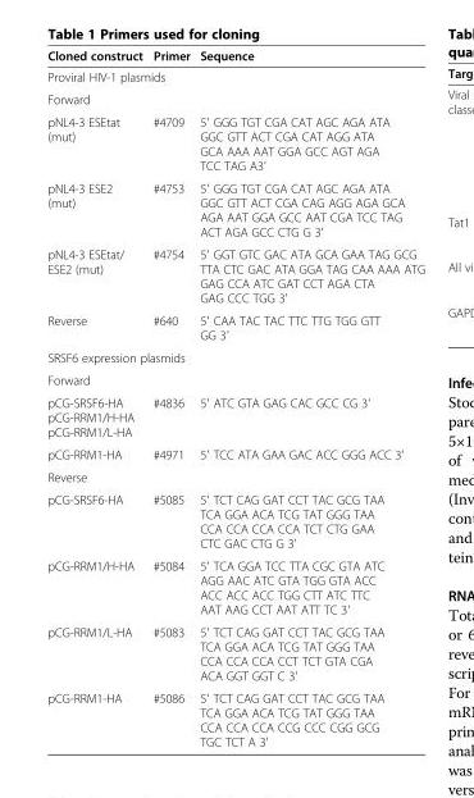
<table><thead><tr><td>Cloned construct</td><td>Primer</td><td>Sequence</td></tr></thead><tbody><tr><td colspan="3">Proviral HIV-1 plasmids</td></tr><tr><td colspan="3">Forward</td></tr><tr><td>pNL4-3 ESEtat (mut)</td><td>#4709</td><td>5′ GGG TGT CGA CAT AGC AGA ATA GGC GTT ACT CGA CAT AGG ATA GCA AAA AAT GGA GCC AGT AGA TCC TAG A3′</td></tr><tr><td>pNL4-3 ESE2 (mut)</td><td>#4753</td><td>5′ GGG TGT CGA CAT AGC AGA ATA GGC GTT ACT CGA CAG AGG AGA GCA AGA AAT GGA GCC AAT CGA TCC TAG ACT AGA GCC CTG G 3′</td></tr><tr><td>pNL4-3 ESEtat/ ESE2 (mut)</td><td>#4754</td><td>5′ GGT GTC GAC ATA GCA GAA TAG GCG TTA CTC GAC ATA GGA TAG CAA AAA ATG GAG CCA ATC GAT CCT AGA CTA GAG CCC TGG 3′</td></tr><tr><td>Reverse</td><td>#640</td><td>5′ CAA TAC TAC TTC TTG TGG GTT GG 3′</td></tr><tr><td colspan="3">SRSF6 expression plasmids</td></tr><tr><td colspan="3">Forward</td></tr><tr><td>pCG-SRSF6-HA pCG-RRM1/H-HA pCG-RRM1/L-HA</td><td>#4836</td><td>5′ ATC GTA GAG CAC GCC CG 3′</td></tr><tr><td>pCG-RRM1-HA</td><td>#4971</td><td>5′ TCC ATA GAA GAC ACC GGG ACC 3′</td></tr><tr><td colspan="3">Reverse</td></tr><tr><td>pCG-SRSF6-HA</td><td>#5085</td><td>5′ TCT CAG GAT CCT TAC GCG TAA TCA GGA ACA TCG TAT GGG TAA CCA CCA CCA CCA TCT CTG GAA CTC GAC CTG G 3′</td></tr><tr><td>pCG-RRM1/H-HA</td><td>#5084</td><td>5′ TCA GGA TCC TTA CGC GTA ATC AGG AAC ATC GTA TGG GTA ACC ACC ACC ACC TGG CTT ATC TTC AAT AAG CCT AAT ATT TC 3′</td></tr><tr><td>pCG-RRM1/L-HA</td><td>#5083</td><td>5′ TCT CAG GAT CCT TAC GCG TAA TCA GGA ACA TCG TAT GGG TAA CCA CCA CCA CCT TCT GTA CGA ACA GGT GGT C 3′</td></tr><tr><td>pCG-RRM1-HA</td><td>#5086</td><td>5′ TCT CAG GAT CCT TAC GCG TAA TCA GGA ACA TCG TAT GGG TAA CCA CCA CCA CCG CCC CGG GCG TGC TCT A 3′</td></tr></tbody></table>